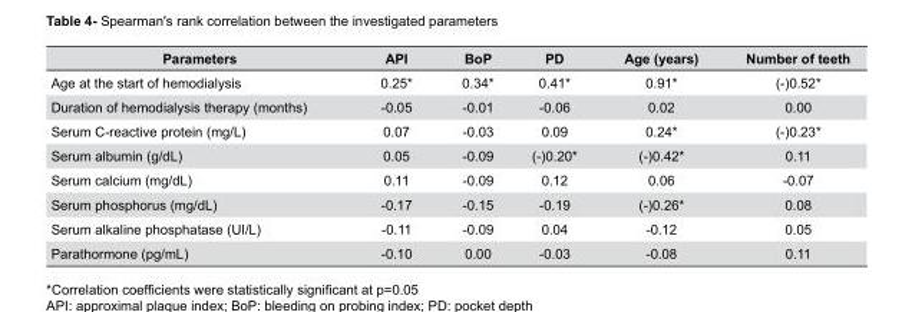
<table><thead><tr><td>Parameters</td><td>API</td><td>BoP</td><td>PD</td><td>Age (years)</td><td>Number of teeth</td></tr></thead><tbody><tr><td>Age at the start of hemodialysis</td><td>0.25*</td><td>0.34*</td><td>0.41*</td><td>0.91*</td><td>(-)0.52*</td></tr><tr><td>Duration of hemodialysis therapy (months)</td><td>-0.05</td><td>-0.01</td><td>-0.06</td><td>0.02</td><td>0.00</td></tr><tr><td>Serum C-reactive protein (mg/L)</td><td>0.07</td><td>-0.03</td><td>0.09</td><td>0.24*</td><td>(-)0.23*</td></tr><tr><td>Serum albumin (g/dL)</td><td>0.05</td><td>-0.09</td><td>(-)0.20*</td><td>(-)0.42*</td><td>0.11</td></tr><tr><td>Serum calcium (mg/dL)</td><td>0.11</td><td>-0.09</td><td>0.12</td><td>0.06</td><td>-0.07</td></tr><tr><td>Serum phosphorus (mg/dL)</td><td>-0.17</td><td>-0.15</td><td>-0.19</td><td>(-)0.26*</td><td>0.08</td></tr><tr><td>Serum alkaline phosphatase (UI/L)</td><td>-0.11</td><td>-0.09</td><td>0.04</td><td>-0.12</td><td>0.05</td></tr><tr><td>Parathormone (pg/mL)</td><td>-0.10</td><td>0.00</td><td>-0.03</td><td>-0.08</td><td>0.11</td></tr></tbody></table>